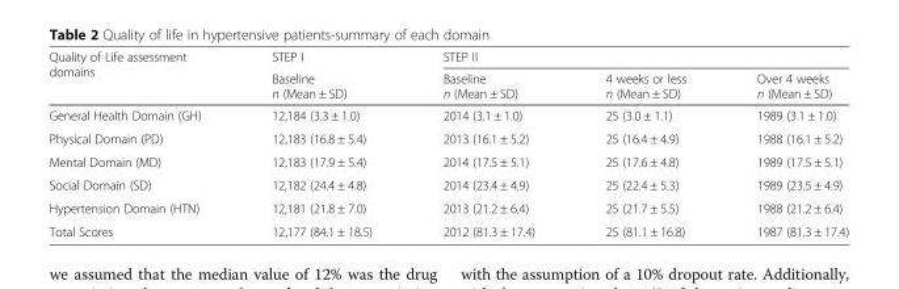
<table><thead><tr><td rowspan="2">Quality of Life assessment domains</td><td rowspan="2">STEP I Baseline n (Mean ± SD)</td><td colspan="3">STEP II</td></tr><tr><td>Baseline n (Mean ± SD)</td><td>4 weeks or less n (Mean ± SD)</td><td>Over 4 weeks n (Mean ± SD)</td></tr></thead><tbody><tr><td>General Health Domain (GH)</td><td>12,184 (3.3 ± 1.0)</td><td>2014 (3.1 ± 1.0)</td><td>25 (3.0 ± 1.1)</td><td>1989 (3.1 ± 1.0)</td></tr><tr><td>Physical Domain (PD)</td><td>12,183 (16.8 ± 5.4)</td><td>2013 (16.1 ± 5.2)</td><td>25 (16.4 ± 4.9)</td><td>1988 (16.1 ± 5.2)</td></tr><tr><td>Mental Domain (MD)</td><td>12,183 (17.9 ± 5.4)</td><td>2014 (17.5 ± 5.1)</td><td>25 (17.6 ± 4.8)</td><td>1989 (17.5 ± 5.1)</td></tr><tr><td>Social Domain (SD)</td><td>12,182 (24.4 ± 4.8)</td><td>2014 (23.4 ± 4.9)</td><td>25 (22.4 ± 5.3)</td><td>1989 (23.5 ± 4.9)</td></tr><tr><td>Hypertension Domain (HTN)</td><td>12,181 (21.8 ± 7.0)</td><td>2013 (21.2 ± 6.4)</td><td>25 (21.7 ± 5.5)</td><td>1988 (21.2 ± 6.4)</td></tr><tr><td>Total Scores</td><td>12,177 (84.1 ± 18.5)</td><td>2012 (81.3 ± 17.4)</td><td>25 (81.1 ± 16.8)</td><td>1987 (81.3 ± 17.4)</td></tr></tbody></table>